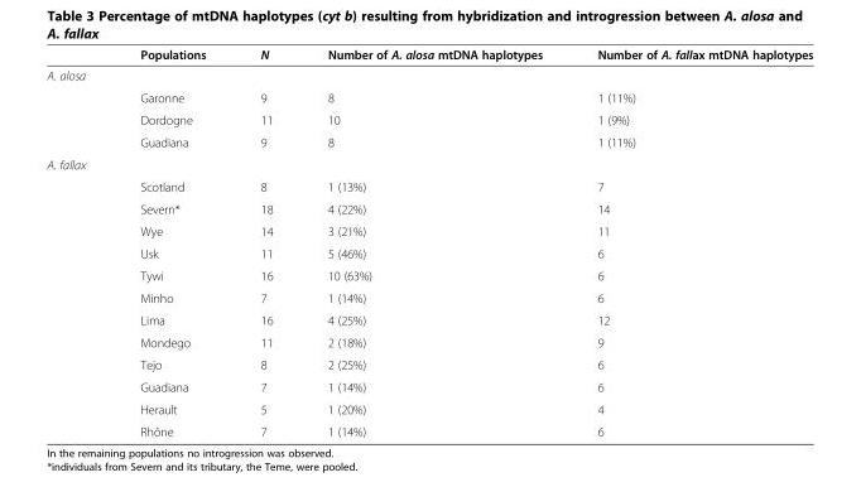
<table><thead><tr><td></td><td>Populations</td><td>N</td><td>Number of A. alosa mtDNA haplotypes</td><td>Number of A. fallax mtDNA haplotypes</td></tr></thead><tbody><tr><td colspan="5">A. alosa</td></tr><tr><td></td><td>Garonne</td><td>9</td><td>8</td><td>1 (11%)</td></tr><tr><td></td><td>Dordogne</td><td>11</td><td>10</td><td>1 (9%)</td></tr><tr><td></td><td>Guadiana</td><td>9</td><td>8</td><td>1 (11%)</td></tr><tr><td colspan="5">A. fallax</td></tr><tr><td></td><td>Scotland</td><td>8</td><td>1 (13%)</td><td>7</td></tr><tr><td></td><td>Severn*</td><td>18</td><td>4 (22%)</td><td>14</td></tr><tr><td></td><td>Wye</td><td>14</td><td>3 (21%)</td><td>11</td></tr><tr><td></td><td>Usk</td><td>11</td><td>5 (46%)</td><td>6</td></tr><tr><td></td><td>Tywi</td><td>16</td><td>10 (63%)</td><td>6</td></tr><tr><td></td><td>Minho</td><td>7</td><td>1 (14%)</td><td>6</td></tr><tr><td></td><td>Lima</td><td>16</td><td>4 (25%)</td><td>12</td></tr><tr><td></td><td>Mondego</td><td>11</td><td>2 (18%)</td><td>9</td></tr><tr><td></td><td>Tejo</td><td>8</td><td>2 (25%)</td><td>6</td></tr><tr><td></td><td>Guadiana</td><td>7</td><td>1 (14%)</td><td>6</td></tr><tr><td></td><td>Herault</td><td>5</td><td>1 (20%)</td><td>4</td></tr><tr><td></td><td>Rhône</td><td>7</td><td>1 (14%)</td><td>6</td></tr></tbody></table>